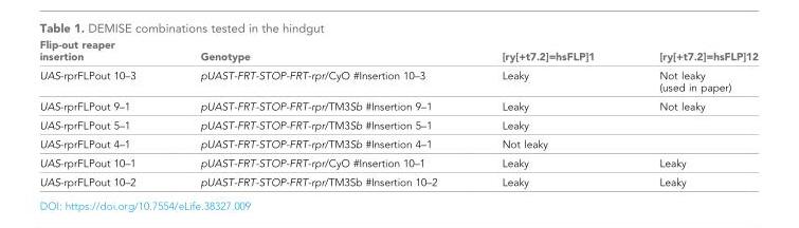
<table><thead><tr><td>Flip-out reaper insertion</td><td>Genotype</td><td>[ry[+t7.2]=hsFLP]1</td><td>[ry[+t7.2]=hsFLP]12</td></tr></thead><tbody><tr><td>UAS-rprFLPout 10–3</td><td>pUAST-FRT-STOP-FRT-rpr/CyO #Insertion 10–3</td><td>Leaky</td><td>Not leaky (used in paper)</td></tr><tr><td>UAS-rprFLPout 9–1</td><td>pUAST-FRT-STOP-FRT-rpr/TM3Sb #Insertion 9–1</td><td>Leaky</td><td>Not leaky</td></tr><tr><td>UAS-rprFLPout 5–1</td><td>pUAST-FRT-STOP-FRT-rpr/TM3Sb #Insertion 5–1</td><td>Leaky</td><td></td></tr><tr><td>UAS-rprFLPout 4–1</td><td>pUAST-FRT-STOP-FRT-rpr/TM3Sb #Insertion 4–1</td><td>Not leaky</td><td></td></tr><tr><td>UAS-rprFLPout 10–1</td><td>pUAST-FRT-STOP-FRT-rpr/CyO #Insertion 10–1</td><td>Leaky</td><td>Leaky</td></tr><tr><td>UAS-rprFLPout 10–2</td><td>pUAST-FRT-STOP-FRT-rpr/TM3Sb #Insertion 10–2</td><td>Leaky</td><td>Leaky</td></tr></tbody></table>